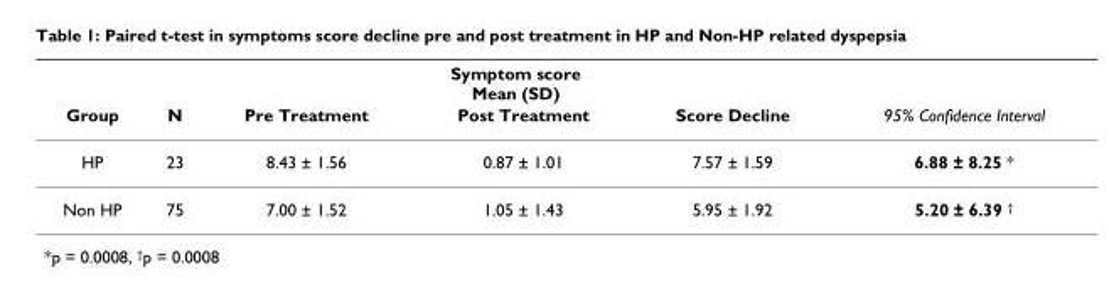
<table><thead><tr><td rowspan="2">Group</td><td rowspan="2">N</td><td colspan="3">Symptom score Mean (SD)</td><td rowspan="2">95% Confidence Interval</td></tr><tr><td>Pre Treatment</td><td>Post Treatment</td><td>Score Decline</td></tr></thead><tbody><tr><td>HP</td><td>23</td><td>8.43 ± 1.56</td><td>0.87 ± 1.01</td><td>7.57 ± 1.59</td><td>6.88 ± 8.25 *</td></tr><tr><td>Non HP</td><td>75</td><td>7.00 ± 1.52</td><td>1.05 ± 1.43</td><td>5.95 ± 1.92</td><td>5.20 ± 6.39 <sup>†</sup></td></tr></tbody></table>